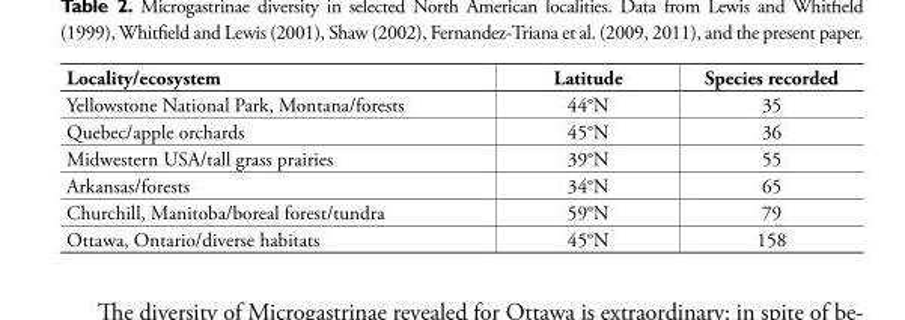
<table><thead><tr><td>Locality/ecosystem</td><td>Latitude</td><td>Species recorded</td></tr></thead><tbody><tr><td>Yellowstone National Park, Montana/forests</td><td>44°N</td><td>35</td></tr><tr><td>Quebec/apple orchards</td><td>45°N</td><td>36</td></tr><tr><td>Midwestern USA/tall grass prairies</td><td>39°N</td><td>55</td></tr><tr><td>Arkansas/forests</td><td>34°N</td><td>65</td></tr><tr><td>Churchill, Manitoba/boreal forest/tundra</td><td>59°N</td><td>79</td></tr><tr><td>Ottawa, Ontario/diverse habitats</td><td>45°N</td><td>158</td></tr></tbody></table>